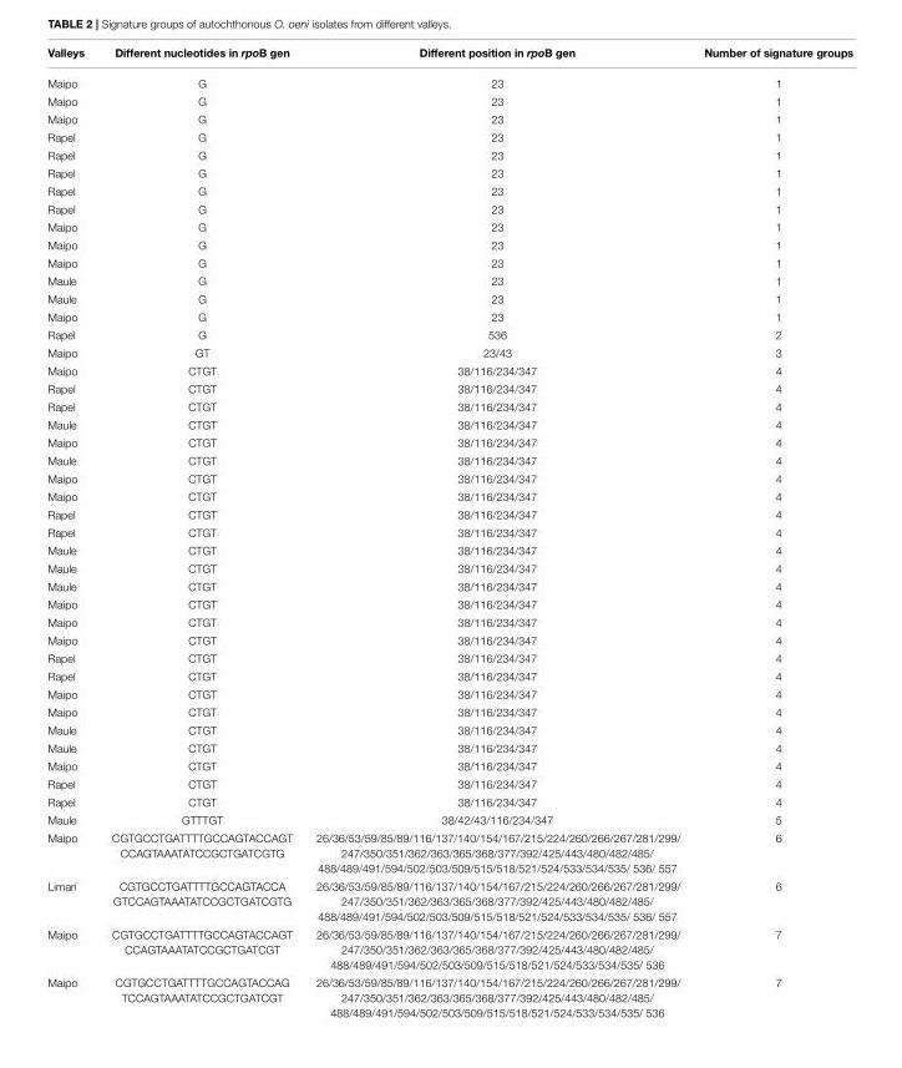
<table><thead><tr><td>Valleys</td><td>Different nucleotides in rpoB gen</td><td>Different position in rpoB gen</td><td>Number of signature groups</td></tr></thead><tbody><tr><td>Maipo</td><td>G</td><td>23</td><td>1</td></tr><tr><td>Maipo</td><td>G</td><td>23</td><td>1</td></tr><tr><td>Maipo</td><td>G</td><td>23</td><td>1</td></tr><tr><td>Rapel</td><td>G</td><td>23</td><td>1</td></tr><tr><td>Rapel</td><td>G</td><td>23</td><td>1</td></tr><tr><td>Rapel</td><td>G</td><td>23</td><td>1</td></tr><tr><td>Rapel</td><td>G</td><td>23</td><td>1</td></tr><tr><td>Rapel</td><td>G</td><td>23</td><td>1</td></tr><tr><td>Maipo</td><td>G</td><td>23</td><td>1</td></tr><tr><td>Maipo</td><td>G</td><td>23</td><td>1</td></tr><tr><td>Maipo</td><td>G</td><td>23</td><td>1</td></tr><tr><td>Maule</td><td>G</td><td>23</td><td>1</td></tr><tr><td>Maule</td><td>G</td><td>23</td><td>1</td></tr><tr><td>Maipo</td><td>G</td><td>23</td><td>1</td></tr><tr><td>Rapel</td><td>G</td><td>536</td><td>2</td></tr><tr><td>Maipo</td><td>GT</td><td>23/43</td><td>3</td></tr><tr><td>Maipo</td><td>CTGT</td><td>38/116/234/347</td><td>4</td></tr><tr><td>Rapel</td><td>CTGT</td><td>38/116/234/347</td><td>4</td></tr><tr><td>Rapel</td><td>CTGT</td><td>38/116/234/347</td><td>4</td></tr><tr><td>Maule</td><td>CTGT</td><td>38/116/234/347</td><td>4</td></tr><tr><td>Maipo</td><td>CTGT</td><td>38/116/234/347</td><td>4</td></tr><tr><td>Maule</td><td>CTGT</td><td>38/116/234/347</td><td>4</td></tr><tr><td>Maipo</td><td>CTGT</td><td>38/116/234/347</td><td>4</td></tr><tr><td>Maipo</td><td>CTGT</td><td>38/116/234/347</td><td>4</td></tr><tr><td>Rapel</td><td>CTGT</td><td>38/116/234/347</td><td>4</td></tr><tr><td>Rapel</td><td>CTGT</td><td>38/116/234/347</td><td>4</td></tr><tr><td>Maule</td><td>CTGT</td><td>38/116/234/347</td><td>4</td></tr><tr><td>Maule</td><td>CTGT</td><td>38/116/234/347</td><td>4</td></tr><tr><td>Maule</td><td>CTGT</td><td>38/116/234/347</td><td>4</td></tr><tr><td>Maipo</td><td>CTGT</td><td>38/116/234/347</td><td>4</td></tr><tr><td>Maipo</td><td>CTGT</td><td>38/116/234/347</td><td>4</td></tr><tr><td>Maipo</td><td>CTGT</td><td>38/116/234/347</td><td>4</td></tr><tr><td>Rapel</td><td>CTGT</td><td>38/116/234/347</td><td>4</td></tr><tr><td>Rapel</td><td>CTGT</td><td>38/116/234/347</td><td>4</td></tr><tr><td>Maipo</td><td>CTGT</td><td>38/116/234/347</td><td>4</td></tr><tr><td>Maipo</td><td>CTGT</td><td>38/116/234/347</td><td>4</td></tr><tr><td>Maule</td><td>CTGT</td><td>38/116/234/347</td><td>4</td></tr><tr><td>Maule</td><td>CTGT</td><td>38/116/234/347</td><td>4</td></tr><tr><td>Maipo</td><td>CTGT</td><td>38/116/234/347</td><td>4</td></tr><tr><td>Rapel</td><td>CTGT</td><td>38/116/234/347</td><td>4</td></tr><tr><td>Rapel</td><td>CTGT</td><td>38/116/234/347</td><td>4</td></tr><tr><td>Maule</td><td>GTTTGT</td><td>38/42/43/116/234/347</td><td>5</td></tr><tr><td>Maipo</td><td>CGTGCCTGATTTTGCCAGTACCAGT CCAGTAAATATCCGCTGATCGTG</td><td>26/36/53/59/85/89/116/137/140/154/167/215/224/260/266/267/281/299/ 247/350/351/362/363/365/368/377/392/425/443/480/482/485/ 488/489/491/594/502/503/509/515/518/521/524/533/534/535/ 536/ 557</td><td>6</td></tr><tr><td>Limarí</td><td>CGTGCCTGATTTTGCCAGTACCA GTCCAGTAAATATCCGCTGATCGTG</td><td>26/36/53/59/85/89/116/137/140/154/167/215/224/260/266/267/281/299/ 247/350/351/362/363/365/368/377/392/425/443/480/482/485/ 488/489/491/594/502/503/509/515/518/521/524/533/534/535/ 536/ 557</td><td>6</td></tr><tr><td>Maipo</td><td>CGTGCCTGATTTTGCCAGTACCAGT CCAGTAAATATCCGCTGATCGT</td><td>26/36/53/59/85/89/116/137/140/154/167/215/224/260/266/267/281/299/ 247/350/351/362/363/365/368/377/392/425/443/480/482/485/ 488/489/491/594/502/503/509/515/518/521/524/533/534/535/ 536</td><td>7</td></tr><tr><td>Maipo</td><td>CGTGCCTGATTTTGCCAGTACCAG TCCAGTAAATATCCGCTGATCGT</td><td>26/36/53/59/85/89/116/137/140/154/167/215/224/260/266/267/281/299/ 247/350/351/362/363/365/368/377/392/425/443/480/482/485/ 488/489/491/594/502/503/509/515/518/521/524/533/534/535/ 536</td><td>7</td></tr></tbody></table>